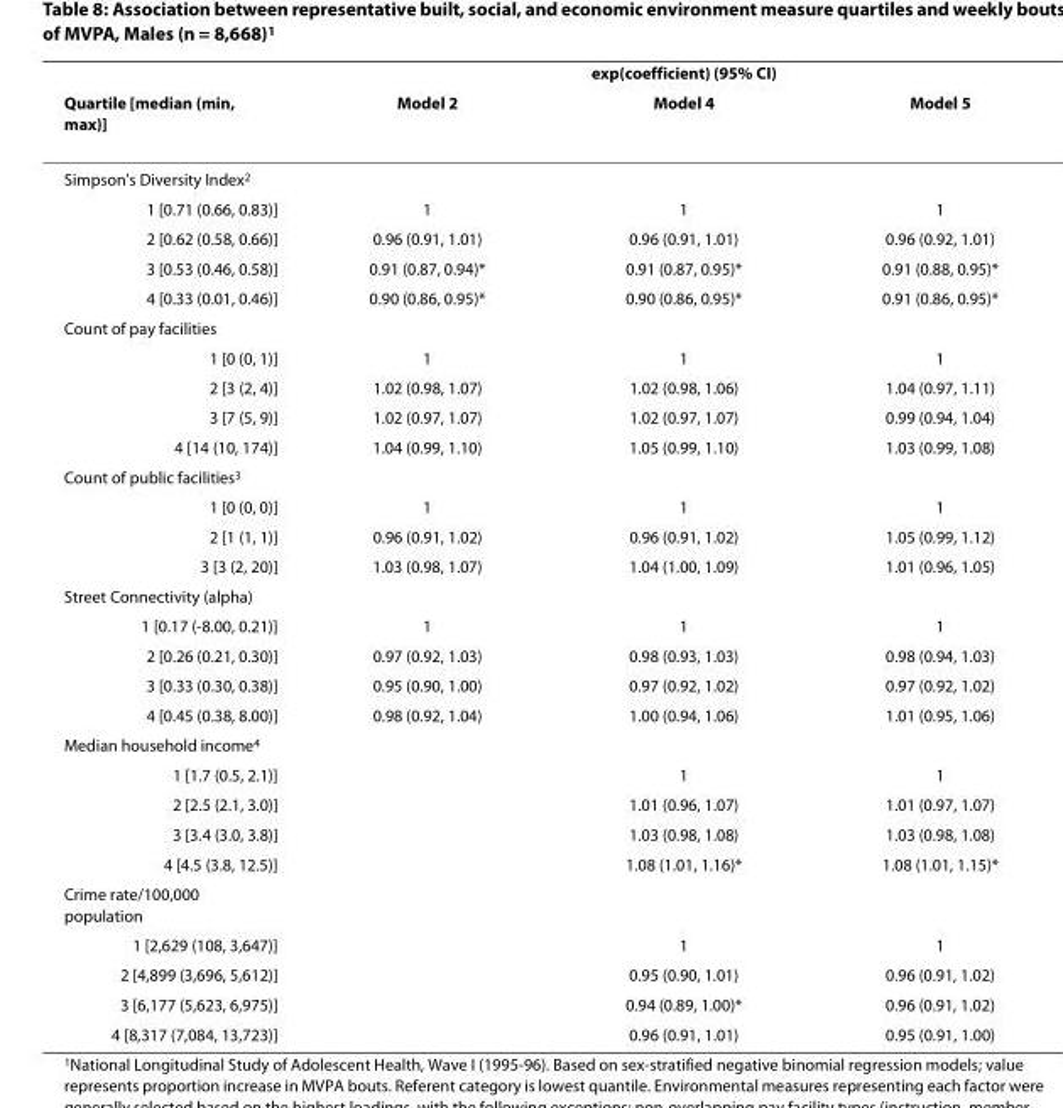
<table><thead><tr><td rowspan="2">Quartile [median (min, max)]</td><td colspan="3">exp(coefficient) (95% CI)</td></tr><tr><td>Model 2</td><td>Model 4</td><td>Model 5</td></tr></thead><tbody><tr><td colspan="4">Simpson&#x27;s Diversity Index<sup>2</sup></td></tr><tr><td>1 [0.71 (0.66, 0.83)]</td><td>1</td><td>1</td><td>1</td></tr><tr><td>2 [0.62 (0.58, 0.66)]</td><td>0.96 (0.91, 1.01)</td><td>0.96 (0.91, 1.01)</td><td>0.96 (0.92, 1.01)</td></tr><tr><td>3 [0.53 (0.46, 0.58)]</td><td>0.91 (0.87, 0.94)*</td><td>0.91 (0.87, 0.95)*</td><td>0.91 (0.88, 0.95)*</td></tr><tr><td>4 [0.33 (0.01, 0.46)]</td><td>0.90 (0.86, 0.95)*</td><td>0.90 (0.86, 0.95)*</td><td>0.91 (0.86, 0.95)*</td></tr><tr><td colspan="4">Count of pay facilities</td></tr><tr><td>1 [0 (0, 1)]</td><td>1</td><td>1</td><td>1</td></tr><tr><td>2 [3 (2, 4)]</td><td>1.02 (0.98, 1.07)</td><td>1.02 (0.98, 1.06)</td><td>1.04 (0.97, 1.11)</td></tr><tr><td>3 [7 (5, 9)]</td><td>1.02 (0.97, 1.07)</td><td>1.02 (0.97, 1.07)</td><td>0.99 (0.94, 1.04)</td></tr><tr><td>4 [14 (10, 174)]</td><td>1.04 (0.99, 1.10)</td><td>1.05 (0.99, 1.10)</td><td>1.03 (0.99, 1.08)</td></tr><tr><td colspan="4">Count of public facilities<sup>3</sup></td></tr><tr><td>1 [0 (0, 0)]</td><td>1</td><td>1</td><td>1</td></tr><tr><td>2 [1 (1, 1)]</td><td>0.96 (0.91, 1.02)</td><td>0.96 (0.91, 1.02)</td><td>1.05 (0.99, 1.12)</td></tr><tr><td>3 [3 (2, 20)]</td><td>1.03 (0.98, 1.07)</td><td>1.04 (1.00, 1.09)</td><td>1.01 (0.96, 1.05)</td></tr><tr><td colspan="4">Street Connectivity (alpha)</td></tr><tr><td>1 [0.17 (-8.00, 0.21)]</td><td>1</td><td>1</td><td>1</td></tr><tr><td>2 [0.26 (0.21, 0.30)]</td><td>0.97 (0.92, 1.03)</td><td>0.98 (0.93, 1.03)</td><td>0.98 (0.94, 1.03)</td></tr><tr><td>3 [0.33 (0.30, 0.38)]</td><td>0.95 (0.90, 1.00)</td><td>0.97 (0.92, 1.02)</td><td>0.97 (0.92, 1.02)</td></tr><tr><td>4 [0.45 (0.38, 8.00)]</td><td>0.98 (0.92, 1.04)</td><td>1.00 (0.94, 1.06)</td><td>1.01 (0.95, 1.06)</td></tr><tr><td colspan="4">Median household income<sup>4</sup></td></tr><tr><td>1 [1.7 (0.5, 2.1)]</td><td></td><td>1</td><td>1</td></tr><tr><td>2 [2.5 (2.1, 3.0)]</td><td></td><td>1.01 (0.96, 1.07)</td><td>1.01 (0.97, 1.07)</td></tr><tr><td>3 [3.4 (3.0, 3.8)]</td><td></td><td>1.03 (0.98, 1.08)</td><td>1.03 (0.98, 1.08)</td></tr><tr><td>4 [4.5 (3.8, 12.5)]</td><td></td><td>1.08 (1.01, 1.16)*</td><td>1.08 (1.01, 1.15)*</td></tr><tr><td colspan="4">Crime rate/100,000 population</td></tr><tr><td>1 [2,629 (108, 3,647)]</td><td></td><td>1</td><td>1</td></tr><tr><td>2 [4,899 (3,696, 5,612)]</td><td></td><td>0.95 (0.90, 1.01)</td><td>0.96 (0.91, 1.02)</td></tr><tr><td>3 [6,177 (5,623, 6,975)]</td><td></td><td>0.94 (0.89, 1.00)*</td><td>0.96 (0.91, 1.02)</td></tr><tr><td>4 [8,317 (7,084, 13,723)]</td><td></td><td>0.96 (0.91, 1.01)</td><td>0.95 (0.91, 1.00)</td></tr></tbody></table>